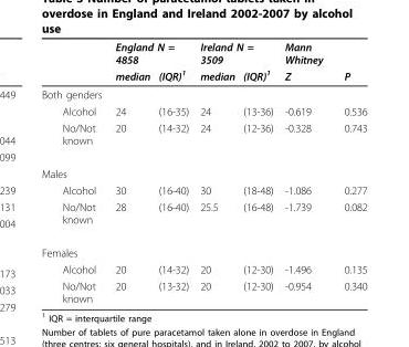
<table><thead><tr><td rowspan="2"></td><td colspan="2">England N = 4858</td><td colspan="2">Ireland N = 3509</td><td rowspan="2">Mann Whitney Z</td><td rowspan="2">P</td></tr><tr><td>median</td><td>(IQR)<sup>1</sup></td><td>median</td><td>(IQR)<sup>1</sup></td></tr></thead><tbody><tr><td colspan="7">Both genders</td></tr><tr><td>Alcohol</td><td>24</td><td>(16-35)</td><td>24</td><td>(13-36)</td><td>-0.619</td><td>0.536</td></tr><tr><td>No/Not known</td><td>20</td><td>(14-32)</td><td>24</td><td>(12-36)</td><td>-0.328</td><td>0.743</td></tr><tr><td colspan="7">Males</td></tr><tr><td>Alcohol</td><td>30</td><td>(16-40)</td><td>30</td><td>(18-48)</td><td>-1.086</td><td>0.277</td></tr><tr><td>No/Not known</td><td>28</td><td>(16-40)</td><td>25.5</td><td>(16-48)</td><td>-1.739</td><td>0.082</td></tr><tr><td colspan="7">Females</td></tr><tr><td>Alcohol</td><td>20</td><td>(14-32)</td><td>20</td><td>(12-30)</td><td>-1.496</td><td>0.135</td></tr><tr><td>No/Not known</td><td>20</td><td>(13-32)</td><td>20</td><td>(12-30)</td><td>-0.954</td><td>0.340</td></tr></tbody></table>